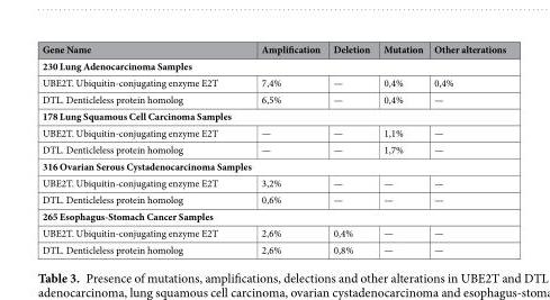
<table><thead><tr><td>Gene Name</td><td>Amplification</td><td>Deletion</td><td>Mutation</td><td>Other alterations</td></tr></thead><tbody><tr><td colspan="5">230 Lung Adenocarcinoma Samples</td></tr><tr><td>UBE2T. Ubiquitin-conjugating enzyme E2T</td><td>7,4%</td><td>—</td><td>0,4%</td><td>0,4%</td></tr><tr><td>DTL. Denticleless protein homolog</td><td>6,5%</td><td>—</td><td>0,4%</td><td>—</td></tr><tr><td colspan="5">178 Lung Squamous Cell Carcinoma Samples</td></tr><tr><td>UBE2T. Ubiquitin-conjugating enzyme E2T</td><td>—</td><td>—</td><td>1,1%</td><td>—</td></tr><tr><td>DTL. Denticleless protein homolog</td><td>—</td><td>—</td><td>1,7%</td><td>—</td></tr><tr><td colspan="5">316 Ovarian Serous Cystadenocarcinoma Samples</td></tr><tr><td>UBE2T. Ubiquitin-conjugating enzyme E2T</td><td>3,2%</td><td>—</td><td>—</td><td>—</td></tr><tr><td>DTL. Denticleless protein homolog</td><td>0,6%</td><td>—</td><td>—</td><td>—</td></tr><tr><td colspan="5">265 Esophagus-Stomach Cancer Samples</td></tr><tr><td>UBE2T. Ubiquitin-conjugating enzyme E2T</td><td>2,6%</td><td>0,4%</td><td>—</td><td>—</td></tr><tr><td>DTL. Denticleless protein homolog</td><td>2,6%</td><td>0,8%</td><td>—</td><td>—</td></tr></tbody></table>